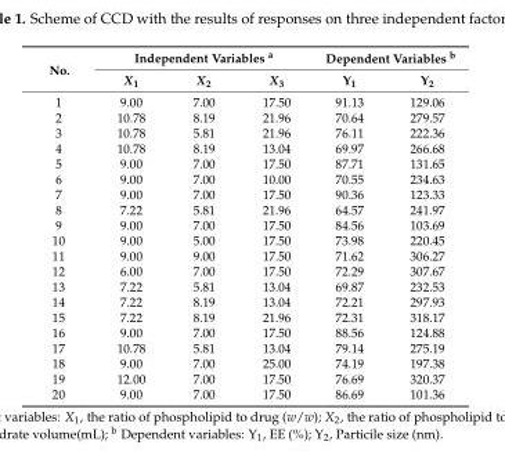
<table><thead><tr><td rowspan="2">No.</td><td colspan="3">Independent Variables <sup>a</sup></td><td colspan="2">Dependent Variables <sup>b</sup></td></tr><tr><td>X<sub>1</sub></td><td>X<sub>2</sub></td><td>X<sub>3</sub></td><td>Y<sub>1</sub></td><td>Y<sub>2</sub></td></tr></thead><tbody><tr><td>1</td><td>9.00</td><td>7.00</td><td>17.50</td><td>91.13</td><td>129.06</td></tr><tr><td>2</td><td>10.78</td><td>8.19</td><td>21.96</td><td>70.64</td><td>279.57</td></tr><tr><td>3</td><td>10.78</td><td>5.81</td><td>21.96</td><td>76.11</td><td>222.36</td></tr><tr><td>4</td><td>10.78</td><td>8.19</td><td>13.04</td><td>69.97</td><td>266.68</td></tr><tr><td>5</td><td>9.00</td><td>7.00</td><td>17.50</td><td>87.71</td><td>131.65</td></tr><tr><td>6</td><td>9.00</td><td>7.00</td><td>10.00</td><td>70.55</td><td>234.63</td></tr><tr><td>7</td><td>9.00</td><td>7.00</td><td>17.50</td><td>90.36</td><td>123.33</td></tr><tr><td>8</td><td>7.22</td><td>5.81</td><td>21.96</td><td>64.57</td><td>241.97</td></tr><tr><td>9</td><td>9.00</td><td>7.00</td><td>17.50</td><td>84.56</td><td>103.69</td></tr><tr><td>10</td><td>9.00</td><td>5.00</td><td>17.50</td><td>73.98</td><td>220.45</td></tr><tr><td>11</td><td>9.00</td><td>9.00</td><td>17.50</td><td>71.62</td><td>306.27</td></tr><tr><td>12</td><td>6.00</td><td>7.00</td><td>17.50</td><td>72.29</td><td>307.67</td></tr><tr><td>13</td><td>7.22</td><td>5.81</td><td>13.04</td><td>69.87</td><td>232.53</td></tr><tr><td>14</td><td>7.22</td><td>8.19</td><td>13.04</td><td>72.21</td><td>297.93</td></tr><tr><td>15</td><td>7.22</td><td>8.19</td><td>21.96</td><td>72.31</td><td>318.17</td></tr><tr><td>16</td><td>9.00</td><td>7.00</td><td>17.50</td><td>88.56</td><td>124.88</td></tr><tr><td>17</td><td>10.78</td><td>5.81</td><td>13.04</td><td>79.14</td><td>275.19</td></tr><tr><td>18</td><td>9.00</td><td>7.00</td><td>25.00</td><td>74.19</td><td>197.38</td></tr><tr><td>19</td><td>12.00</td><td>7.00</td><td>17.50</td><td>76.69</td><td>320.37</td></tr><tr><td>20</td><td>9.00</td><td>7.00</td><td>17.50</td><td>86.69</td><td>101.36</td></tr></tbody></table>